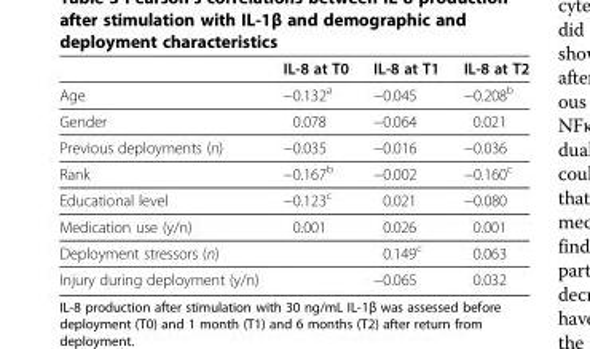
<table><thead><tr><td></td><td>IL-8 at T0</td><td>IL-8 at T1</td><td>IL-8 at T2</td></tr></thead><tbody><tr><td>Age</td><td>−0.132<sup>a</sup></td><td>−0.045</td><td>−0.208<sup>b</sup></td></tr><tr><td>Gender</td><td>0.078</td><td>−0.064</td><td>0.021</td></tr><tr><td>Previous deployments (n)</td><td>−0.035</td><td>−0.016</td><td>−0.036</td></tr><tr><td>Rank</td><td>−0.167<sup>b</sup></td><td>−0.002</td><td>−0.160<sup>c</sup></td></tr><tr><td>Educational level</td><td>−0.123<sup>c</sup></td><td>0.021</td><td>−0.080</td></tr><tr><td>Medication use (y/n)</td><td>0.001</td><td>0.026</td><td>0.001</td></tr><tr><td>Deployment stressors (n)</td><td></td><td>0.149<sup>c</sup></td><td>0.063</td></tr><tr><td>Injury during deployment (y/n)</td><td></td><td>−0.065</td><td>0.032</td></tr></tbody></table>